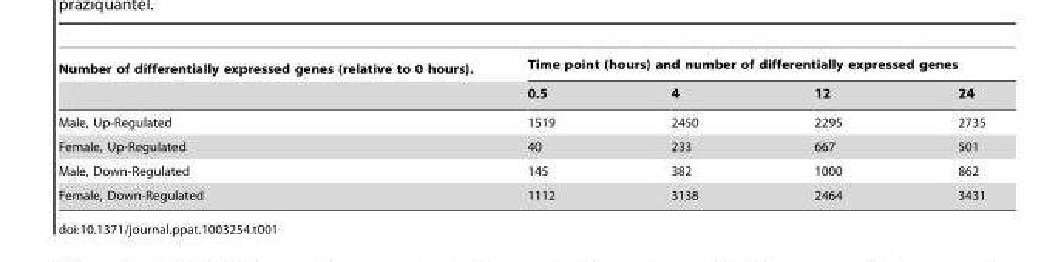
<table><thead><tr><td rowspan="2">Number of differentially expressed genes (relative to 0 hours).</td><td colspan="4">Time point (hours) and number of differentially expressed genes</td></tr><tr><td>0.5</td><td>4</td><td>12</td><td>24</td></tr></thead><tbody><tr><td>Male, Up-Regulated</td><td>1519</td><td>2450</td><td>2295</td><td>2735</td></tr><tr><td>Female, Up-Regulated</td><td>40</td><td>233</td><td>667</td><td>501</td></tr><tr><td>Male, Down-Regulated</td><td>145</td><td>382</td><td>1000</td><td>862</td></tr><tr><td>Female, Down-Regulated</td><td>1112</td><td>3138</td><td>2464</td><td>3431</td></tr></tbody></table>